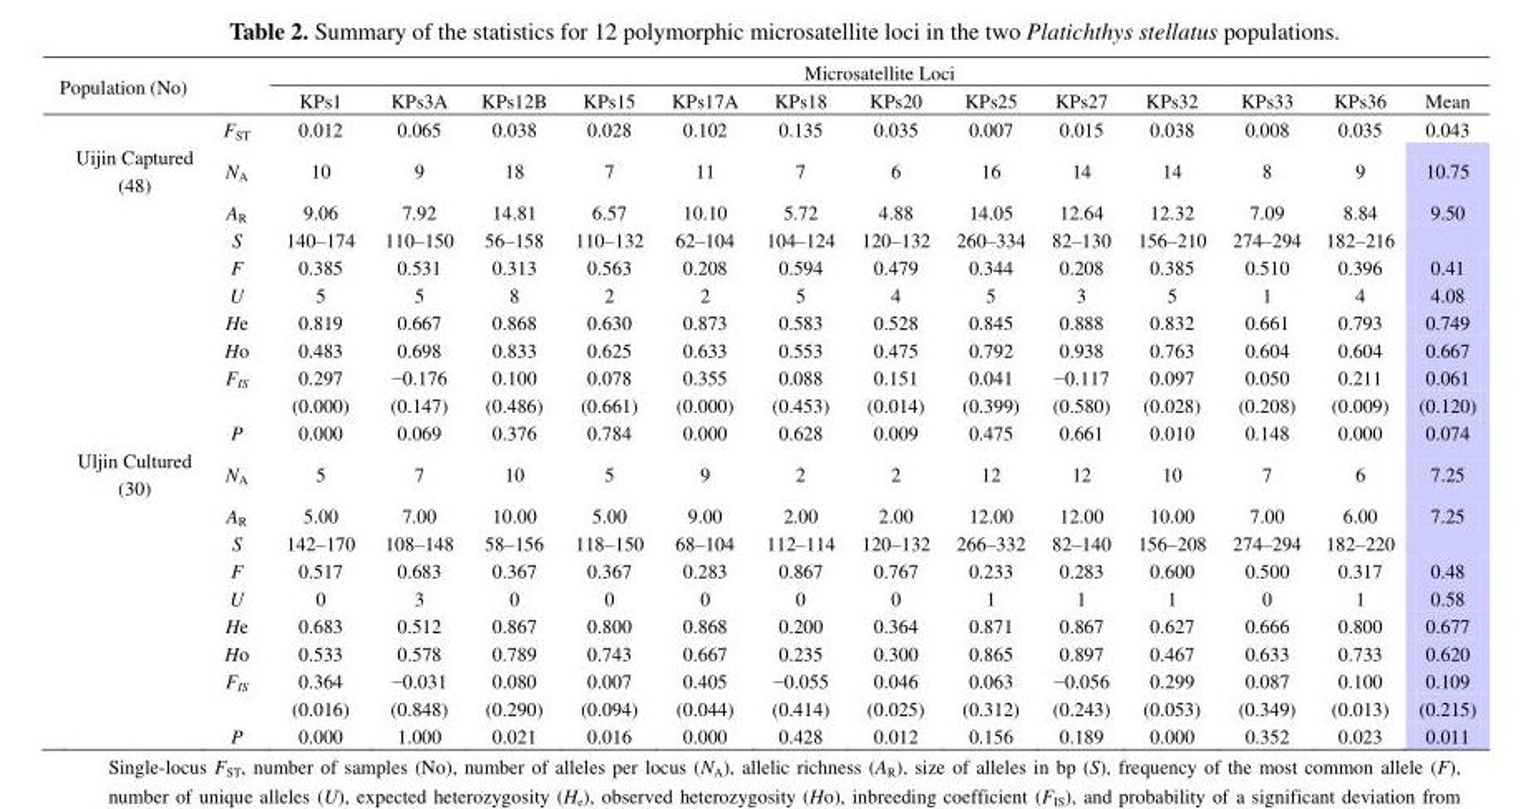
<table><thead><tr><td rowspan="2">Population (No)</td><td rowspan="2"></td><td colspan="13">Microsatellite Loci</td></tr><tr><td>KPs1</td><td>KPs3A</td><td>KPs12B</td><td>KPs15</td><td>KPs17A</td><td>KPs18</td><td>KPs20</td><td>KPs25</td><td>KPs27</td><td>KPs32</td><td>KPs33</td><td>KPs36</td><td>Mean</td></tr></thead><tbody><tr><td></td><td>F<sub>ST</sub></td><td>0.012</td><td>0.065</td><td>0.038</td><td>0.028</td><td>0.102</td><td>0.135</td><td>0.035</td><td>0.007</td><td>0.015</td><td>0.038</td><td>0.008</td><td>0.035</td><td>0.043</td></tr><tr><td rowspan="9">Uijin Captured (48)</td><td>N<sub>A</sub></td><td>10</td><td>9</td><td>18</td><td>7</td><td>11</td><td>7</td><td>6</td><td>16</td><td>14</td><td>14</td><td>8</td><td>9</td><td>10.75</td></tr><tr><td>A<sub>R</sub></td><td>9.06</td><td>7.92</td><td>14.81</td><td>6.57</td><td>10.10</td><td>5.72</td><td>4.88</td><td>14.05</td><td>12.64</td><td>12.32</td><td>7.09</td><td>8.84</td><td>9.50</td></tr><tr><td>S</td><td>140–174</td><td>110–150</td><td>56–158</td><td>110–132</td><td>62–104</td><td>104–124</td><td>120–132</td><td>260–334</td><td>82–130</td><td>156–210</td><td>274–294</td><td>182–216</td><td></td></tr><tr><td>F</td><td>0.385</td><td>0.531</td><td>0.313</td><td>0.563</td><td>0.208</td><td>0.594</td><td>0.479</td><td>0.344</td><td>0.208</td><td>0.385</td><td>0.510</td><td>0.396</td><td>0.41</td></tr><tr><td>U</td><td>5</td><td>5</td><td>8</td><td>2</td><td>2</td><td>5</td><td>4</td><td>5</td><td>3</td><td>5</td><td>1</td><td>4</td><td>4.08</td></tr><tr><td>He</td><td>0.819</td><td>0.667</td><td>0.868</td><td>0.630</td><td>0.873</td><td>0.583</td><td>0.528</td><td>0.845</td><td>0.888</td><td>0.832</td><td>0.661</td><td>0.793</td><td>0.749</td></tr><tr><td>Ho</td><td>0.483</td><td>0.698</td><td>0.833</td><td>0.625</td><td>0.633</td><td>0.553</td><td>0.475</td><td>0.792</td><td>0.938</td><td>0.763</td><td>0.604</td><td>0.604</td><td>0.667</td></tr><tr><td>F<sub>IS</sub></td><td>0.297 (0.000)</td><td>−0.176 (0.147)</td><td>0.100 (0.486)</td><td>0.078 (0.661)</td><td>0.355 (0.000)</td><td>0.088 (0.453)</td><td>0.151 (0.014)</td><td>0.041 (0.399)</td><td>−0.117 (0.580)</td><td>0.097 (0.028)</td><td>0.050 (0.208)</td><td>0.211 (0.009)</td><td>0.061 (0.120)</td></tr><tr><td>P</td><td>0.000</td><td>0.069</td><td>0.376</td><td>0.784</td><td>0.000</td><td>0.628</td><td>0.009</td><td>0.475</td><td>0.661</td><td>0.010</td><td>0.148</td><td>0.000</td><td>0.074</td></tr><tr><td rowspan="9">Uljin Cultured (30)</td><td>N<sub>A</sub></td><td>5</td><td>7</td><td>10</td><td>5</td><td>9</td><td>2</td><td>2</td><td>12</td><td>12</td><td>10</td><td>7</td><td>6</td><td>7.25</td></tr><tr><td>A<sub>R</sub></td><td>5.00</td><td>7.00</td><td>10.00</td><td>5.00</td><td>9.00</td><td>2.00</td><td>2.00</td><td>12.00</td><td>12.00</td><td>10.00</td><td>7.00</td><td>6.00</td><td>7.25</td></tr><tr><td>S</td><td>142–170</td><td>108–148</td><td>58–156</td><td>118–150</td><td>68–104</td><td>112–114</td><td>120–132</td><td>266–332</td><td>82–140</td><td>156–208</td><td>274–294</td><td>182–220</td><td></td></tr><tr><td>F</td><td>0.517</td><td>0.683</td><td>0.367</td><td>0.367</td><td>0.283</td><td>0.867</td><td>0.767</td><td>0.233</td><td>0.283</td><td>0.600</td><td>0.500</td><td>0.317</td><td>0.48</td></tr><tr><td>U</td><td>0</td><td>3</td><td>0</td><td>0</td><td>0</td><td>0</td><td>0</td><td>1</td><td>1</td><td>1</td><td>0</td><td>1</td><td>0.58</td></tr><tr><td>He</td><td>0.683</td><td>0.512</td><td>0.867</td><td>0.800</td><td>0.868</td><td>0.200</td><td>0.364</td><td>0.871</td><td>0.867</td><td>0.627</td><td>0.666</td><td>0.800</td><td>0.677</td></tr><tr><td>Ho</td><td>0.533</td><td>0.578</td><td>0.789</td><td>0.743</td><td>0.667</td><td>0.235</td><td>0.300</td><td>0.865</td><td>0.897</td><td>0.467</td><td>0.633</td><td>0.733</td><td>0.620</td></tr><tr><td>F<sub>IS</sub></td><td>0.364 (0.016)</td><td>−0.031 (0.848)</td><td>0.080 (0.290)</td><td>0.007 (0.094)</td><td>0.405 (0.044)</td><td>−0.055 (0.414)</td><td>0.046 (0.025)</td><td>0.063 (0.312)</td><td>−0.056 (0.243)</td><td>0.299 (0.053)</td><td>0.087 (0.349)</td><td>0.100 (0.013)</td><td>0.109 (0.215)</td></tr><tr><td>P</td><td>0.000</td><td>1.000</td><td>0.021</td><td>0.016</td><td>0.000</td><td>0.428</td><td>0.012</td><td>0.156</td><td>0.189</td><td>0.000</td><td>0.352</td><td>0.023</td><td>0.011</td></tr></tbody></table>